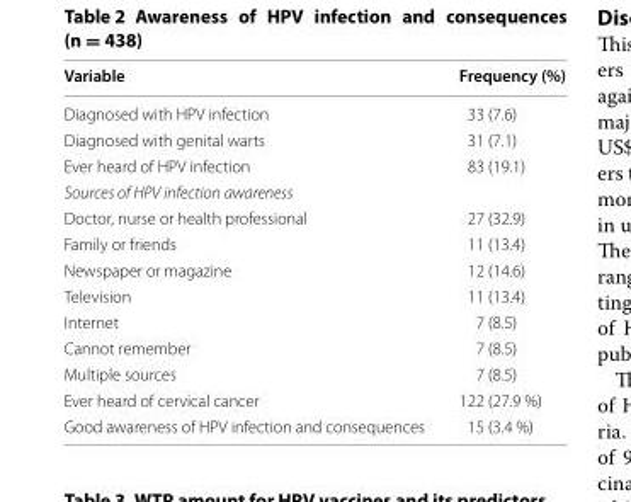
<table><thead><tr><td>Variable</td><td>Frequency (%)</td></tr></thead><tbody><tr><td>Diagnosed with HPV infection</td><td>33 (7.6)</td></tr><tr><td>Diagnosed with genital warts</td><td>31 (7.1)</td></tr><tr><td>Ever heard of HPV infection</td><td>83 (19.1)</td></tr><tr><td colspan="2">Sources of HPV infection awareness</td></tr><tr><td>Doctor, nurse or health professional</td><td>27 (32.9)</td></tr><tr><td>Family or friends</td><td>11 (13.4)</td></tr><tr><td>Newspaper or magazine</td><td>12 (14.6)</td></tr><tr><td>Television</td><td>11 (13.4)</td></tr><tr><td>Internet</td><td>7 (8.5)</td></tr><tr><td>Cannot remember</td><td>7 (8.5)</td></tr><tr><td>Multiple sources</td><td>7 (8.5)</td></tr><tr><td>Ever heard of cervical cancer</td><td>122 (27.9 %)</td></tr><tr><td>Good awareness of HPV infection and consequences</td><td>15 (3.4 %)</td></tr></tbody></table>